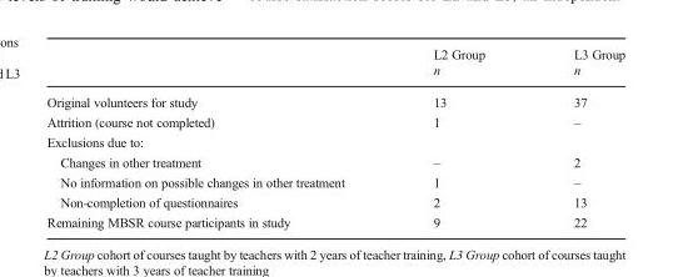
<table><thead><tr><td rowspan="2"></td><td rowspan="2">L2 Group n</td><td rowspan="2">L3 Group n</td></tr><tr></tr></thead><tbody><tr><td>Original volunteers for study</td><td>13</td><td>37</td></tr><tr><td>Attrition (course not completed)</td><td>1</td><td>–</td></tr><tr><td colspan="3">Exclusions due to:</td></tr><tr><td>Changes in other treatment</td><td>–</td><td>2</td></tr><tr><td>No information on possible changes in other treatment</td><td>1</td><td>–</td></tr><tr><td>Non-completion of questionnaires</td><td>2</td><td>13</td></tr><tr><td>Remaining MBSR course participants in study</td><td>9</td><td>22</td></tr></tbody></table>